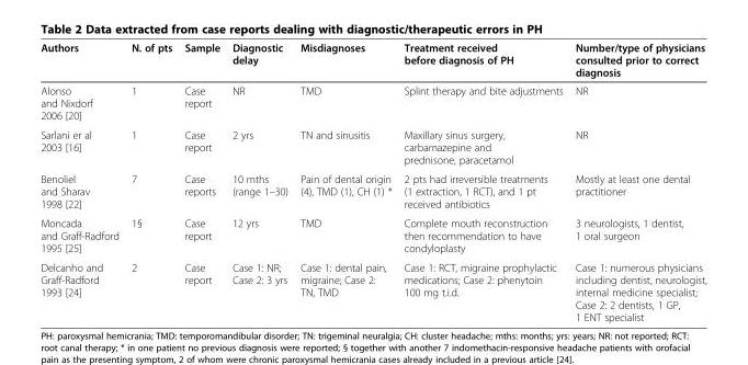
<table><thead><tr><td>Authors</td><td>N. of pts</td><td>Sample</td><td>Diagnostic delay</td><td>Misdiagnoses</td><td>Treatment received before diagnosis of PH</td><td>Number/type of physicians consulted prior to correct diagnosis</td></tr></thead><tbody><tr><td>Alonso and Nixdorf 2006 [20]</td><td>1</td><td>Case report</td><td>NR</td><td>TMD</td><td>Splint therapy and bite adjustments</td><td>NR</td></tr><tr><td>Sarlani er al 2003 [16]</td><td>1</td><td>Case report</td><td>2 yrs</td><td>TN and sinusitis</td><td>Maxillary sinus surgery, carbamazepine and prednisone, paracetamol</td><td>NR</td></tr><tr><td>Benoliel and Sharav 1998 [22]</td><td>7</td><td>Case reports</td><td>10 mths (range 1–30)</td><td>Pain of dental origin (4), TMD (1), CH (1) *</td><td>2 pts had irreversible treatments (1 extraction, 1 RCT), and 1 pt received antibiotics</td><td>Mostly at least one dental practitioner</td></tr><tr><td>Moncada and Graff-Radford 1995 [25]</td><td>1§</td><td>Case report</td><td>12 yrs</td><td>TMD</td><td>Complete mouth reconstruction then recommendation to have condyloplasty</td><td>3 neurologists, 1 dentist, 1 oral surgeon</td></tr><tr><td>Delcanho and Graff-Radford 1993 [24]</td><td>2</td><td>Case report</td><td>Case 1: NR; Case 2: 3 yrs</td><td>Case 1: dental pain, migraine; Case 2: TN, TMD</td><td>Case 1: RCT, migraine prophylactic medications; Case 2: phenytoin 100 mg t.i.d.</td><td>Case 1: numerous physicians including dentist, neurologist, internal medicine specialist; Case 2: 2 dentists, 1 GP, 1 ENT specialist</td></tr></tbody></table>